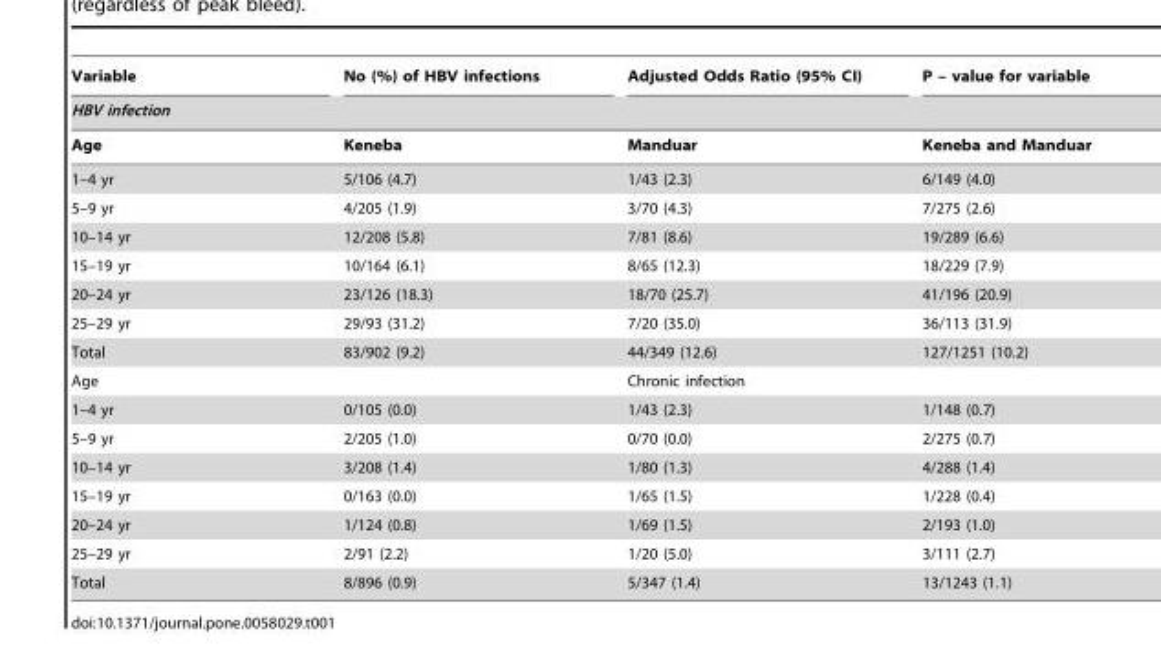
<table><thead><tr><td>Variable</td><td>No (%) of HBV infections</td><td>Adjusted Odds Ratio (95% CI)</td><td>P – value for variable</td></tr><tr><td colspan="4">HBV infection</td></tr><tr><td>Age</td><td>Keneba</td><td>Manduar</td><td>Keneba and Manduar</td></tr></thead><tbody><tr><td>1–4 yr</td><td>5/106 (4.7)</td><td>1/43 (2.3)</td><td>6/149 (4.0)</td></tr><tr><td>5–9 yr</td><td>4/205 (1.9)</td><td>3/70 (4.3)</td><td>7/275 (2.6)</td></tr><tr><td>10–14 yr</td><td>12/208 (5.8)</td><td>7/81 (8.6)</td><td>19/289 (6.6)</td></tr><tr><td>15–19 yr</td><td>10/164 (6.1)</td><td>8/65 (12.3)</td><td>18/229 (7.9)</td></tr><tr><td>20–24 yr</td><td>23/126 (18.3)</td><td>18/70 (25.7)</td><td>41/196 (20.9)</td></tr><tr><td>25–29 yr</td><td>29/93 (31.2)</td><td>7/20 (35.0)</td><td>36/113 (31.9)</td></tr><tr><td>Total</td><td>83/902 (9.2)</td><td>44/349 (12.6)</td><td>127/1251 (10.2)</td></tr><tr><td>Age</td><td></td><td>Chronic infection</td><td></td></tr><tr><td>1–4 yr</td><td>0/105 (0.0)</td><td>1/43 (2.3)</td><td>1/148 (0.7)</td></tr><tr><td>5–9 yr</td><td>2/205 (1.0)</td><td>0/70 (0.0)</td><td>2/275 (0.7)</td></tr><tr><td>10–14 yr</td><td>3/208 (1.4)</td><td>1/80 (1.3)</td><td>4/288 (1.4)</td></tr><tr><td>15–19 yr</td><td>0/163 (0.0)</td><td>1/65 (1.5)</td><td>1/228 (0.4)</td></tr><tr><td>20–24 yr</td><td>1/124 (0.8)</td><td>1/69 (1.5)</td><td>2/193 (1.0)</td></tr><tr><td>25–29 yr</td><td>2/91 (2.2)</td><td>1/20 (5.0)</td><td>3/111 (2.7)</td></tr><tr><td>Total</td><td>8/896 (0.9)</td><td>5/347 (1.4)</td><td>13/1243 (1.1)</td></tr></tbody></table>